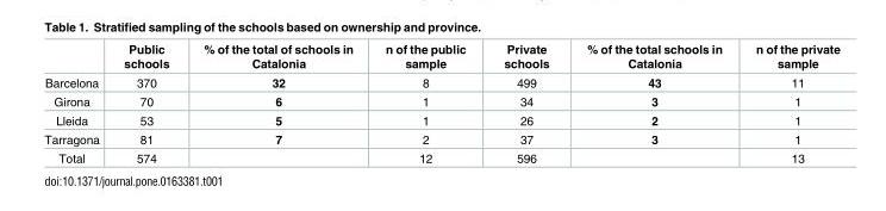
<table><thead><tr><td></td><td>Public schools</td><td>% of the total of schools in Catalonia</td><td>n of the public sample</td><td>Private schools</td><td>% of the total schools in Catalonia</td><td>n of the private sample</td></tr></thead><tbody><tr><td>Barcelona</td><td>370</td><td>32</td><td>8</td><td>499</td><td>43</td><td>11</td></tr><tr><td>Girona</td><td>70</td><td>6</td><td>1</td><td>34</td><td>3</td><td>1</td></tr><tr><td>Lleida</td><td>53</td><td>5</td><td>1</td><td>26</td><td>2</td><td>1</td></tr><tr><td>Tarragona</td><td>81</td><td>7</td><td>2</td><td>37</td><td>3</td><td>1</td></tr><tr><td>Total</td><td>574</td><td></td><td>12</td><td>596</td><td></td><td>13</td></tr></tbody></table>